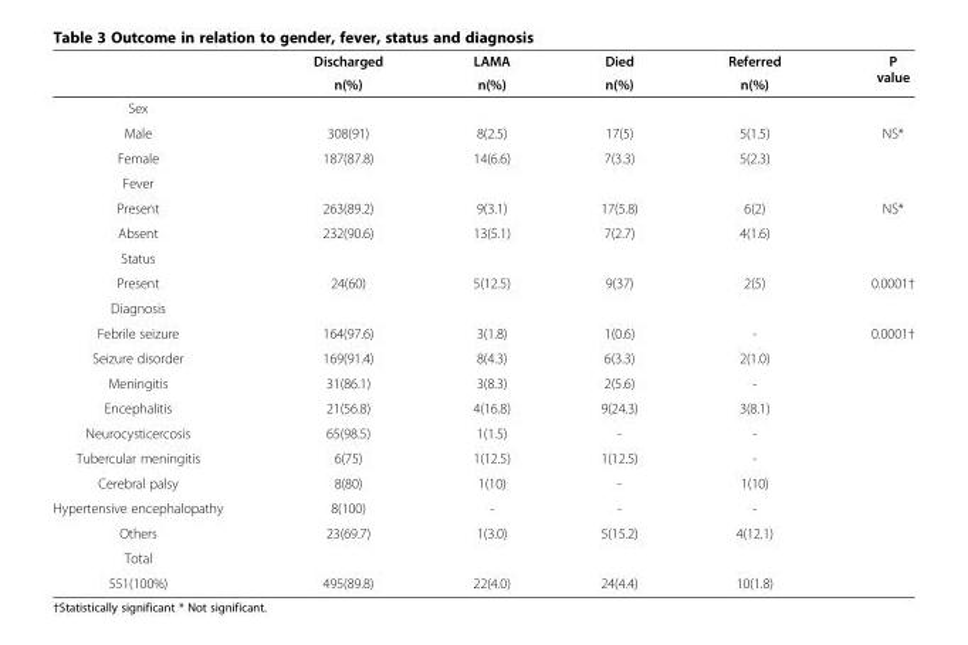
<table><thead><tr><td rowspan="2"></td><td rowspan="2">Discharged n(%)</td><td rowspan="2">LAMA n(%)</td><td rowspan="2">Died n(%)</td><td rowspan="2">Referred n(%)</td><td rowspan="2">P value</td></tr><tr></tr></thead><tbody><tr><td colspan="6">Sex</td></tr><tr><td>Male</td><td>308(91)</td><td>8(2.5)</td><td>17(5)</td><td>5(1.5)</td><td>NS*</td></tr><tr><td>Female</td><td>187(87.8)</td><td>14(6.6)</td><td>7(3.3)</td><td>5(2.3)</td><td></td></tr><tr><td colspan="6">Fever</td></tr><tr><td>Present</td><td>263(89.2)</td><td>9(3.1)</td><td>17(5.8)</td><td>6(2)</td><td>NS*</td></tr><tr><td>Absent</td><td>232(90.6)</td><td>13(5.1)</td><td>7(2.7)</td><td>4(1.6)</td><td></td></tr><tr><td colspan="6">Status</td></tr><tr><td>Present</td><td>24(60)</td><td>5(12.5)</td><td>9(37)</td><td>2(5)</td><td>0.0001†</td></tr><tr><td colspan="6">Diagnosis</td></tr><tr><td>Febrile seizure</td><td>164(97.6)</td><td>3(1.8)</td><td>1(0.6)</td><td>-</td><td rowspan="9">0.0001†</td></tr><tr><td>Seizure disorder</td><td>169(91.4)</td><td>8(4.3)</td><td>6(3.3)</td><td>2(1.0)</td></tr><tr><td>Meningitis</td><td>31(86.1)</td><td>3(8.3)</td><td>2(5.6)</td><td>-</td></tr><tr><td>Encephalitis</td><td>21(56.8)</td><td>4(16.8)</td><td>9(24.3)</td><td>3(8.1)</td></tr><tr><td>Neurocysticercosis</td><td>65(98.5)</td><td>1(1.5)</td><td>-</td><td>-</td></tr><tr><td>Tubercular meningitis</td><td>6(75)</td><td>1(12.5)</td><td>1(12.5)</td><td>-</td></tr><tr><td>Cerebral palsy</td><td>8(80)</td><td>1(10)</td><td>-</td><td>1(10)</td></tr><tr><td>Hypertensive encephalopathy</td><td>8(100)</td><td>-</td><td>-</td><td>-</td></tr><tr><td>Others</td><td>23(69.7)</td><td>1(3.0)</td><td>5(15.2)</td><td>4(12.1)</td></tr><tr><td colspan="6">Total</td></tr><tr><td>551(100%)</td><td>495(89.8)</td><td>22(4.0)</td><td>24(4.4)</td><td>10(1.8)</td><td></td></tr></tbody></table>